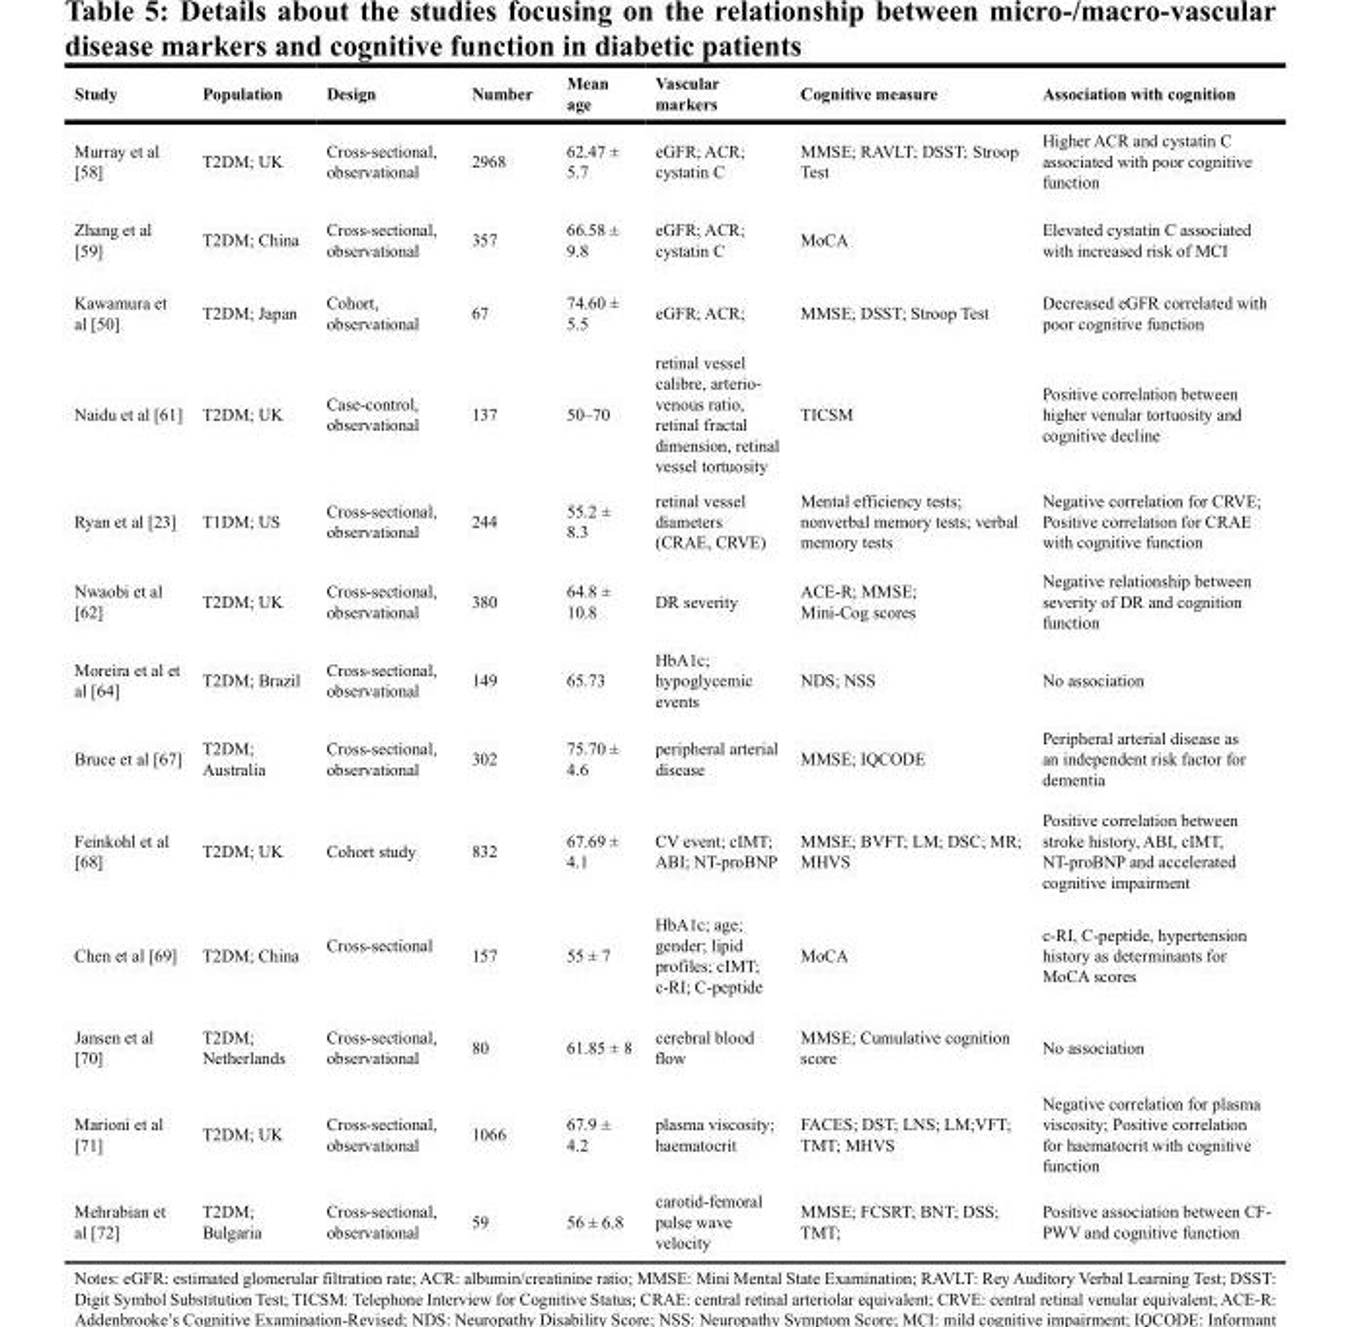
<table><thead><tr><td>Study</td><td>Population</td><td>Design</td><td>Number</td><td>Mean age</td><td>Vascular markers</td><td>Cognitive measure</td><td>Association with cognition</td></tr></thead><tbody><tr><td>Murray et al [58]</td><td>T2DM; UK</td><td>Cross-sectional, observational</td><td>2968</td><td>62.47 ± 5.7</td><td>eGFR; ACR; cystatin C</td><td>MMSE; RAVLT; DSST; Stroop Test</td><td>Higher ACR and cystatin C associated with poor cognitive function</td></tr><tr><td>Zhang et al [59]</td><td>T2DM; China</td><td>Cross-sectional, observational</td><td>357</td><td>66.58 ± 9.8</td><td>eGFR; ACR; cystatin C</td><td>MoCA</td><td>Elevated cystatin C associated with increased risk of MCI</td></tr><tr><td>Kawamura et al [50]</td><td>T2DM; Japan</td><td>Cohort, observational</td><td>67</td><td>74.60 ± 5.5</td><td>eGFR; ACR;</td><td>MMSE; DSST; Stroop Test</td><td>Decreased eGFR correlated with poor cognitive function</td></tr><tr><td>Naidu et al [61]</td><td>T2DM; UK</td><td>Case-control, observational</td><td>137</td><td>50–70</td><td>retinal vessel calibre, arterio- venous ratio, retinal fractal dimension, retinal vessel tortuosity</td><td>TICSM</td><td>Positive correlation between higher venular tortuosity and cognitive decline</td></tr><tr><td>Ryan et al [23]</td><td>T1DM; US</td><td>Cross-sectional, observational</td><td>244</td><td>55.2 ± 8.3</td><td>retinal vessel diameters (CRAE, CRVE)</td><td>Mental efficiency tests; nonverbal memory tests; verbal memory tests</td><td>Negative correlation for CRVE; Positive correlation for CRAE with cognitive function</td></tr><tr><td>Nwaobi et al [62]</td><td>T2DM; UK</td><td>Cross-sectional, observational</td><td>380</td><td>64.8 ± 10.8</td><td>DR severity</td><td>ACE-R; MMSE; Mini-Cog scores</td><td>Negative relationship between severity of DR and cognition function</td></tr><tr><td>Moreira et al et al [64]</td><td>T2DM; Brazil</td><td>Cross-sectional, observational</td><td>149</td><td>65.73</td><td>HbA1c; hypoglycemic events</td><td>NDS; NSS</td><td>No association</td></tr><tr><td>Bruce et al [67]</td><td>T2DM; Australia</td><td>Cross-sectional, observational</td><td>302</td><td>75.70 ± 4.6</td><td>peripheral arterial disease</td><td>MMSE; IQCODE</td><td>Peripheral arterial disease as an independent risk factor for dementia</td></tr><tr><td>Feinkohl et al [68]</td><td>T2DM; UK</td><td>Cohort study</td><td>832</td><td>67.69 ± 4.1</td><td>CV event; cIMT; ABI; NT-proBNP</td><td>MMSE; BVFT; LM; DSC; MR; MHVS</td><td>Positive correlation between stroke history, ABI, cIMT, NT-proBNP and accelerated cognitive impairment</td></tr><tr><td>Chen et al [69]</td><td>T2DM; China</td><td>Cross-sectional</td><td>157</td><td>55 ± 7</td><td>HbA1c; age; gender; lipid profiles; cIMT; c-RI; C-peptide</td><td>MoCA</td><td>c-RI, C-peptide, hypertension history as determinants for MoCA scores</td></tr><tr><td>Jansen et al [70]</td><td>T2DM; Netherlands</td><td>Cross-sectional, observational</td><td>80</td><td>61.85 ± 8</td><td>cerebral blood flow</td><td>MMSE; Cumulative cognition score</td><td>No association</td></tr><tr><td>Marioni et al [71]</td><td>T2DM; UK</td><td>Cross-sectional, observational</td><td>1066</td><td>67.9 ± 4.2</td><td>plasma viscosity; haematocrit</td><td>FACES; DST; LNS; LM;VFT; TMT; MHVS</td><td>Negative correlation for plasma viscosity; Positive correlation for haematocrit with cognitive function</td></tr><tr><td>Mehrabian et al [72]</td><td>T2DM; Bulgaria</td><td>Cross-sectional, observational</td><td>59</td><td>56 ± 6.8</td><td>carotid-femoral pulse wave velocity</td><td>MMSE; FCSRT; BNT; DSS; TMT;</td><td>Positive association between CF- PWV and cognitive function</td></tr></tbody></table>